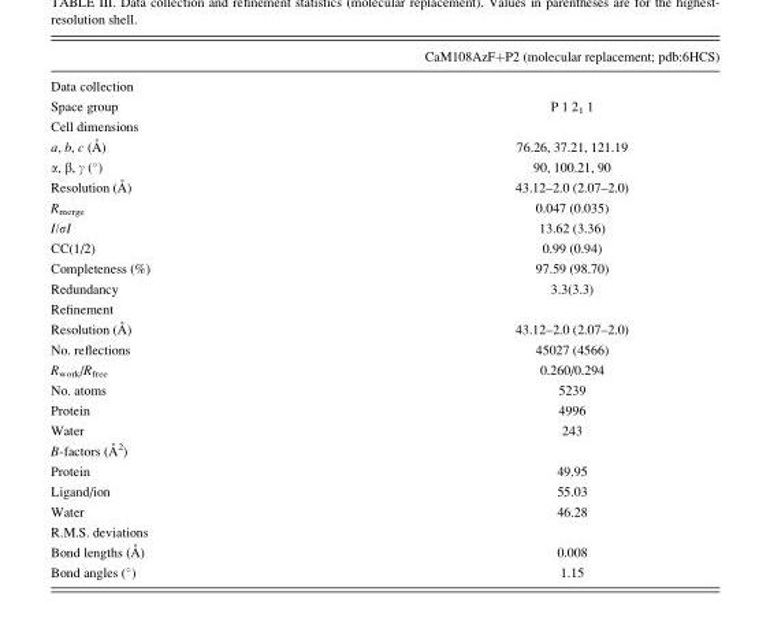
<table><thead><tr><td></td><td>CaM108AzF+P2 (molecular replacement; pdb:6HCS)</td></tr></thead><tbody><tr><td colspan="2">Data collection</td></tr><tr><td>Space group</td><td>P 1 2<sub>1</sub> 1</td></tr><tr><td colspan="2">Cell dimensions</td></tr><tr><td>a, b, c (A˚ )</td><td>76.26, 37.21, 121.19</td></tr><tr><td>α, β, γ (°)</td><td>90, 100.21, 90</td></tr><tr><td>Resolution (A˚ )</td><td>43.12–2.0 (2.07–2.0)</td></tr><tr><td>R<sub>merge</sub></td><td>0.047 (0.035)</td></tr><tr><td>I/σI</td><td>13.62 (3.36)</td></tr><tr><td>CC(1/2)</td><td>0.99 (0.94)</td></tr><tr><td>Completeness (%)</td><td>97.59 (98.70)</td></tr><tr><td>Redundancy</td><td>3.3(3.3)</td></tr><tr><td colspan="2">Refinement</td></tr><tr><td>Resolution (A˚ )</td><td>43.12–2.0 (2.07–2.0)</td></tr><tr><td>No. reflections</td><td>45027 (4566)</td></tr><tr><td>R<sub>work</sub>/R<sub>free</sub></td><td>0.260/0.294</td></tr><tr><td>No. atoms</td><td>5239</td></tr><tr><td>Protein</td><td>4996</td></tr><tr><td>Water</td><td>243</td></tr><tr><td colspan="2">B-factors (A˚ 2)</td></tr><tr><td>Protein</td><td>49.95</td></tr><tr><td>Ligand/ion</td><td>55.03</td></tr><tr><td>Water</td><td>46.28</td></tr><tr><td colspan="2">R.M.S. deviations</td></tr><tr><td>Bond lengths (A˚ )</td><td>0.008</td></tr><tr><td>Bond angles (°)</td><td>1.15</td></tr></tbody></table>